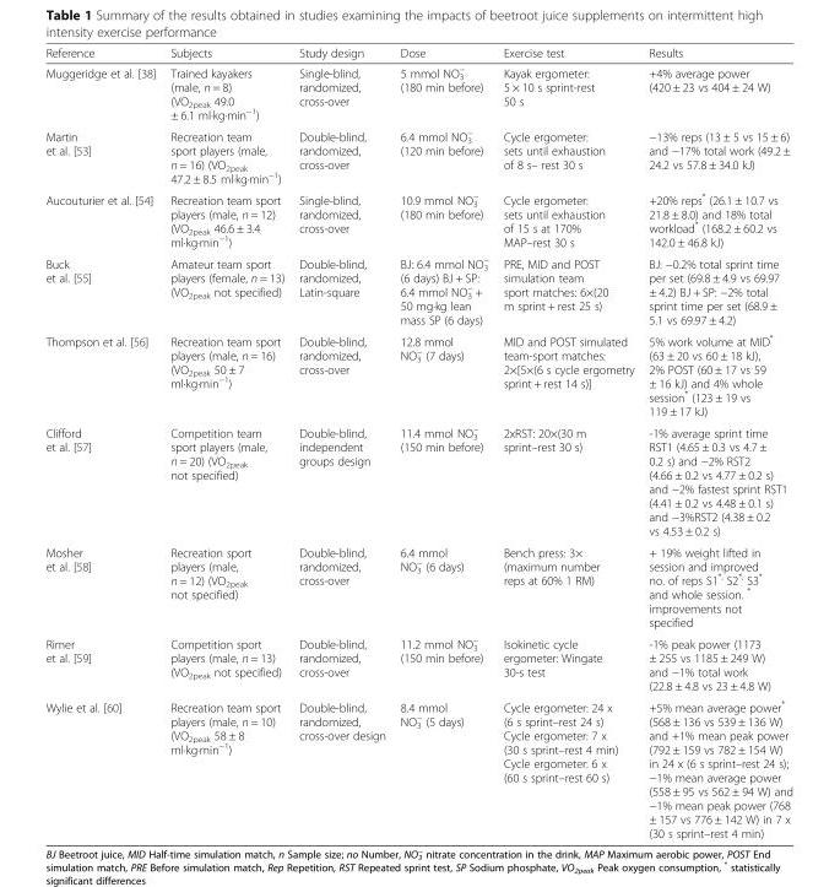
<table><thead><tr><td>Reference</td><td>Subjects</td><td>Study design</td><td>Dose</td><td>Exercise test</td><td>Results</td></tr></thead><tbody><tr><td>Muggeridge et al. [38]</td><td>Trained kayakers (male, n = 8) (VO<sub>2peak</sub> 49.0 ± 6.1 ml·kg·min<sup>−1</sup>)</td><td>Single-blind, randomized, cross-over</td><td>5 mmol NO<sub>3</sub> <sup>−</sup> (180 min before)</td><td>Kayak ergometer: 5 × 10 s sprint-rest 50 s</td><td>+4% average power (420 ± 23 vs 404 ± 24 W)</td></tr><tr><td>Martin et al. [53]</td><td>Recreation team sport players (male, n = 16) (VO<sub>2peak</sub> 47.2 ± 8.5 ml·kg·min<sup>−1</sup>)</td><td>Double-blind, randomized, cross-over</td><td>6.4 mmol NO<sub>3</sub> <sup>−</sup> (120 min before)</td><td>Cycle ergometer: sets until exhaustion of 8 s– rest 30 s</td><td>−13% reps (13 ± 5 vs 15 ± 6) and −17% total work (49.2 ± 24.2 vs 57.8 ± 34.0 kJ)</td></tr><tr><td>Aucouturier et al. [54]</td><td>Recreation team sport players (male, n = 12) (VO<sub>2peak</sub> 46.6 ± 3.4 ml·kg·min<sup>−1</sup>)</td><td>Single-blind, randomized, cross-over</td><td>10.9 mmol NO<sub>3</sub> <sup>−</sup> (180 min before)</td><td>Cycle ergometer: sets until exhaustion of 15 s at 170% MAP–rest 30 s</td><td>+20% reps* (26.1 ± 10.7 vs 21.8 ± 8.0) and 18% total workload* (168.2 ± 60.2 vs 142.0 ± 46.8 kJ)</td></tr><tr><td>Buck et al. [55]</td><td>Amateur team sport players (female, n = 13) (VO<sub>2peak</sub> not specified)</td><td>Double-blind, randomized, Latin-square</td><td>BJ: 6.4 mmol NO<sub>3</sub> <sup>−</sup> (6 days) BJ + SP: 6.4 mmol NO<sub>3</sub> <sup>−</sup> + 50 mg·kg lean mass SP (6 days)</td><td>PRE, MID and POST simulation team sport matches: 6×(20 m sprint + rest 25 s)</td><td>BJ: −0.2% total sprint time per set (69.8 ± 4.9 vs 69.97 ± 4.2) BJ + SP: −2% total sprint time per set (68.9 ± 5.1 vs 69.97 ± 4.2)</td></tr><tr><td>Thompson et al. [56]</td><td>Recreation team sport players (male, n = 16) (VO<sub>2peak</sub> 50 ± 7 ml·kg·min<sup>−1</sup>)</td><td>Double-blind, randomized, cross-over</td><td>12.8 mmol NO<sub>3</sub> <sup>−</sup> (7 days)</td><td>MID and POST simulated team-sport matches: 2×[5×(6 s cycle ergometry sprint + rest 14 s)]</td><td>5% work volume at MID* (63 ± 20 vs 60 ± 18 kJ), 2% POST (60 ± 17 vs 59 ± 16 kJ) and 4% whole session* (123 ± 19 vs 119 ± 17 kJ)</td></tr><tr><td>Clifford et al. [57]</td><td>Competition team sport players (male, n = 20) (VO<sub>2peak</sub> not specified)</td><td>Double-blind, independent groups design</td><td>11.4 mmol NO<sub>3</sub> <sup>−</sup> (150 min before)</td><td>2xRST: 20×(30 m sprint–rest 30 s)</td><td>-1% average sprint time RST1 (4.65 ± 0.3 vs 4.7 ± 0.2 s) and −2% RST2 (4.66 ± 0.2 vs 4.77 ± 0.2 s) and −2% fastest sprint RST1 (4.41 ± 0.2 vs 4.48 ± 0.1 s) and −3%RST2 (4.38 ± 0.2 vs 4.53 ± 0.2 s)</td></tr><tr><td>Mosher et al. [58]</td><td>Recreation sport players (male, n = 12) (VO<sub>2peak</sub> not specified)</td><td>Double-blind, randomized, cross-over</td><td>6.4 mmol NO<sub>3</sub> <sup>−</sup> (6 days)</td><td>Bench press: 3× (maximum number reps at 60% 1 RM)</td><td>+ 19% weight lifted in session and improved no. of reps S1<sup>*,</sup> S2<sup>*,</sup> S3* and whole session. * improvements not specified</td></tr><tr><td>Rimer et al. [59]</td><td>Competition sport players (male, n = 13) (VO<sub>2peak</sub> not specified)</td><td>Double-blind, randomized, cross-over</td><td>11.2 mmol NO<sub>3</sub> <sup>−</sup> (150 min before)</td><td>Isokinetic cycle ergometer: Wingate 30-s test</td><td>-1% peak power (1173 ± 255 vs 1185 ± 249 W) and −1% total work (22.8 ± 4.8 vs 23 ± 4.8 W)</td></tr><tr><td>Wylie et al. [60]</td><td>Recreation team sport players (male, n = 10) (VO<sub>2peak</sub> 58 ± 8 ml·kg·min<sup>−1</sup>)</td><td>Double-blind, randomized, cross-over design</td><td>8.4 mmol NO<sub>3</sub> <sup>−</sup> (5 days)</td><td>Cycle ergometer: 24 x (6 s sprint–rest 24 s) Cycle ergometer: 7 x (30 s sprint–rest 4 min) Cycle ergometer: 6 x (60 s sprint–rest 60 s)</td><td>+5% mean average power* (568 ± 136 vs 539 ± 136 W) and +1% mean peak power (792 ± 159 vs 782 ± 154 W) in 24 x (6 s sprint–rest 24 s); −1% mean average power (558 ± 95 vs 562 ± 94 W) and −1% mean peak power (768 ± 157 vs 776 ± 142 W) in 7 x (30 s sprint–rest 4 min)</td></tr></tbody></table>